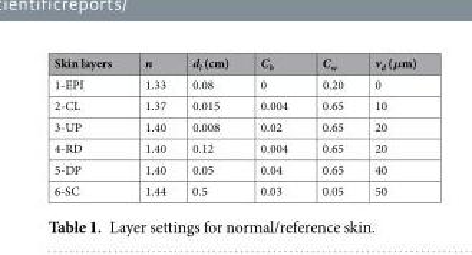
<table><thead><tr><td>Skin layers</td><td>n</td><td>d<sub>l</sub> (cm)</td><td>C<sub>b</sub></td><td>C<sub>w</sub></td><td>v<sub>d</sub> (μm)</td></tr></thead><tbody><tr><td>1-EPI</td><td>1.33</td><td>0.08</td><td>0</td><td>0.20</td><td>0</td></tr><tr><td>2-CL</td><td>1.37</td><td>0.015</td><td>0.004</td><td>0.65</td><td>10</td></tr><tr><td>3-UP</td><td>1.40</td><td>0.008</td><td>0.02</td><td>0.65</td><td>20</td></tr><tr><td>4-RD</td><td>1.40</td><td>0.12</td><td>0.004</td><td>0.65</td><td>20</td></tr><tr><td>5-DP</td><td>1.40</td><td>0.05</td><td>0.04</td><td>0.65</td><td>40</td></tr><tr><td>6-SC</td><td>1.44</td><td>0.5</td><td>0.03</td><td>0.05</td><td>50</td></tr></tbody></table>